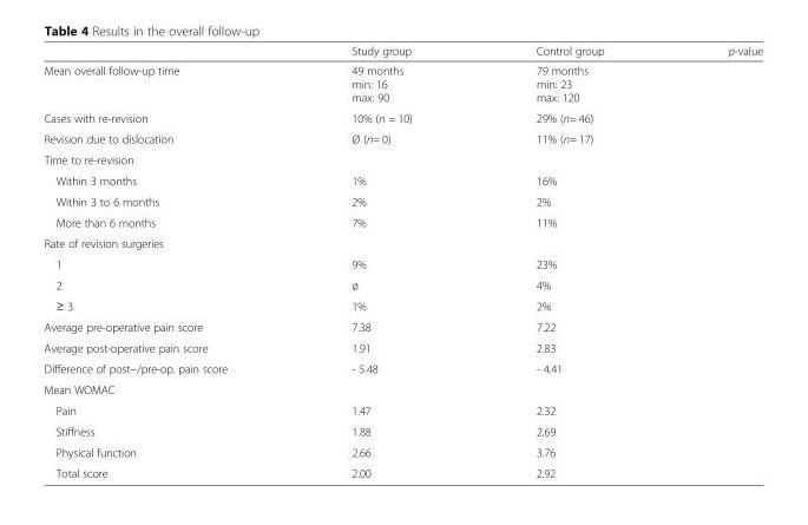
<table><thead><tr><td></td><td>Study group</td><td>Control group</td><td>p-value</td></tr></thead><tbody><tr><td>Mean overall follow-up time</td><td>49 months min: 16 max: 90</td><td>79 months min: 23 max: 120</td><td></td></tr><tr><td>Cases with re-revision</td><td>10% (n = 10)</td><td>29% (n= 46)</td><td></td></tr><tr><td>Revision due to dislocation</td><td>Ø (n= 0)</td><td>11% (n= 17)</td><td></td></tr><tr><td colspan="4">Time to re-revision</td></tr><tr><td>Within 3 months</td><td>1%</td><td>16%</td><td></td></tr><tr><td>Within 3 to 6 months</td><td>2%</td><td>2%</td><td></td></tr><tr><td>More than 6 months</td><td>7%</td><td>11%</td><td></td></tr><tr><td colspan="4">Rate of revision surgeries</td></tr><tr><td>1</td><td>9%</td><td>23%</td><td></td></tr><tr><td>2</td><td>ø</td><td>4%</td><td></td></tr><tr><td>≥ 3</td><td>1%</td><td>2%</td><td></td></tr><tr><td>Average pre-operative pain score</td><td>7.38</td><td>7.22</td><td></td></tr><tr><td>Average post-operative pain score</td><td>1.91</td><td>2.83</td><td></td></tr><tr><td>Difference of post−/pre-op. pain score</td><td>- 5.48</td><td>- 4.41</td><td></td></tr><tr><td colspan="4">Mean WOMAC</td></tr><tr><td>Pain</td><td>1.47</td><td>2.32</td><td></td></tr><tr><td>Stiffness</td><td>1.88</td><td>2.69</td><td></td></tr><tr><td>Physical function</td><td>2.66</td><td>3.76</td><td></td></tr><tr><td>Total score</td><td>2.00</td><td>2.92</td><td></td></tr></tbody></table>